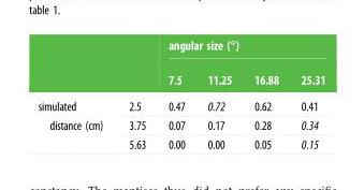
<table><thead><tr><td rowspan="2"></td><td rowspan="2"></td><td colspan="4">angular size (88888)</td></tr><tr><td>7.5</td><td>11.25</td><td>16.88</td><td>25.31</td></tr></thead><tbody><tr><td rowspan="3">simulated distance (cm)</td><td>2.5</td><td>0.47</td><td>0.72</td><td>0.62</td><td>0.41</td></tr><tr><td>3.75</td><td>0.07</td><td>0.17</td><td>0.28</td><td>0.34</td></tr><tr><td>5.63</td><td>0.00</td><td>0.00</td><td>0.05</td><td>0.15</td></tr></tbody></table>